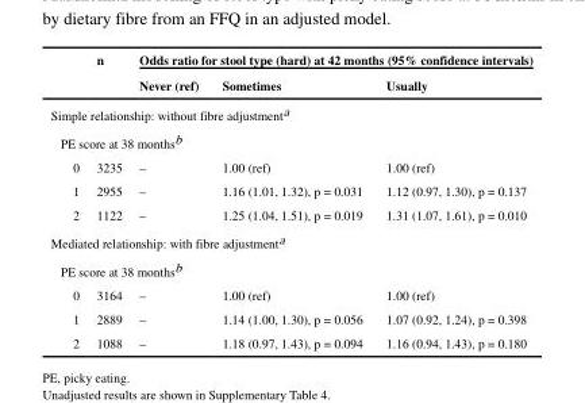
<table><thead><tr><td rowspan="2"></td><td rowspan="2">n</td><td colspan="3">Odds ratio for stool type (hard) at 42 months (95% confidence intervals)</td></tr><tr><td>Never (ref)</td><td>Sometimes</td><td>Usually</td></tr></thead><tbody><tr><td colspan="5">Simple relationship: without fibre adjustment<sup>a</sup></td></tr><tr><td colspan="5">PE score at 38 months<sup>b</sup></td></tr><tr><td>0</td><td>3235</td><td>–</td><td>1.00 (ref)</td><td>1.00 (ref)</td></tr><tr><td>1</td><td>2955</td><td>–</td><td>1.16 (1.01, 1.32), p = 0.031</td><td>1.12 (0.97, 1.30), p = 0.137</td></tr><tr><td>2</td><td>1122</td><td>–</td><td>1.25 (1.04, 1.51), p = 0.019</td><td>1.31 (1.07, 1.61), p = 0.010</td></tr><tr><td colspan="5">Mediated relationship: with fibre adjustment<sup>a</sup></td></tr><tr><td colspan="5">PE score at 38 months<sup>b</sup></td></tr><tr><td>0</td><td>3164</td><td>–</td><td>1.00 (ref)</td><td>1.00 (ref)</td></tr><tr><td>1</td><td>2889</td><td>–</td><td>1.14 (1.00, 1.30), p = 0.056</td><td>1.07 (0.92, 1.24), p = 0.398</td></tr><tr><td>2</td><td>1088</td><td>–</td><td>1.18 (0.97, 1.43), p = 0.094</td><td>1.16 (0.94, 1.43), p = 0.180</td></tr></tbody></table>